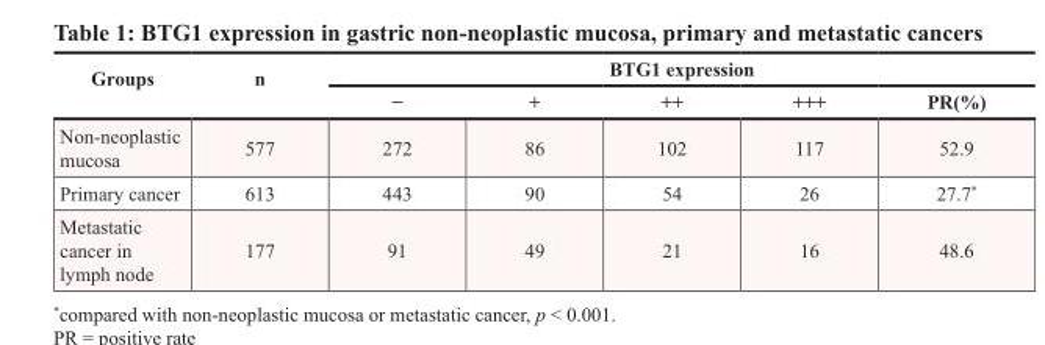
<table><thead><tr><td rowspan="2">Groups</td><td rowspan="2">n</td><td colspan="5">BTG1 expression</td></tr><tr><td>−</td><td>+</td><td>++</td><td>+++</td><td>PR(%)</td></tr></thead><tbody><tr><td>Non-neoplastic mucosa</td><td>577</td><td>272</td><td>86</td><td>102</td><td>117</td><td>52.9</td></tr><tr><td>Primary cancer</td><td>613</td><td>443</td><td>90</td><td>54</td><td>26</td><td>27.7*</td></tr><tr><td>Metastatic cancer in lymph node</td><td>177</td><td>91</td><td>49</td><td>21</td><td>16</td><td>48.6</td></tr></tbody></table>